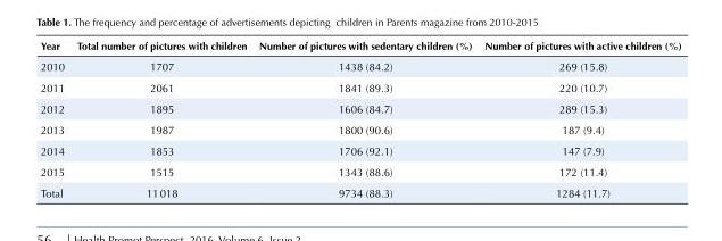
<table><tbody><tr><td>Year</td><td>Total number of pictures with children</td><td>Number of pictures with sedentary children (%)</td><td>Number of pictures with active children (%)</td></tr><tr><td>2010</td><td>1707</td><td>1438 (84.2)</td><td>269 (15.8)</td></tr><tr><td>2011</td><td>2061</td><td>1841 (89.3)</td><td>220 (10.7)</td></tr><tr><td>2012</td><td>1895</td><td>1606 (84.7)</td><td>289 (15.3)</td></tr><tr><td>2013</td><td>1987</td><td>1800 (90.6)</td><td>187 (9.4)</td></tr><tr><td>2014</td><td>1853</td><td>1706 (92.1)</td><td>147 (7.9)</td></tr><tr><td>2015</td><td>1515</td><td>1343 (88.6)</td><td>172 (11.4)</td></tr><tr><td>Total</td><td>11 018</td><td>9734 (88.3)</td><td>1284 (11.7)</td></tr></tbody></table>